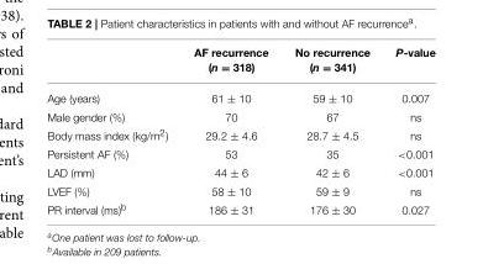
<table><thead><tr><td></td><td>AF recurrence (n = 318)</td><td>No recurrence (n = 341)</td><td>P-value</td></tr></thead><tbody><tr><td>Age (years)</td><td>61 ± 10</td><td>59 ± 10</td><td>0.007</td></tr><tr><td>Male gender (%)</td><td>70</td><td>67</td><td>ns</td></tr><tr><td>Body mass index (kg/m<sup>2</sup>)</td><td>29.2 ± 4.6</td><td>28.7 ± 4.5</td><td>ns</td></tr><tr><td>Persistent AF (%)</td><td>53</td><td>35</td><td>&lt;0.001</td></tr><tr><td>LAD (mm)</td><td>44 ± 6</td><td>42 ± 6</td><td>&lt;0.001</td></tr><tr><td>LVEF (%)</td><td>58 ± 10</td><td>59 ± 9</td><td>ns</td></tr><tr><td>PR interval (ms)<sup>b</sup></td><td>186 ± 31</td><td>176 ± 30</td><td>0.027</td></tr></tbody></table>